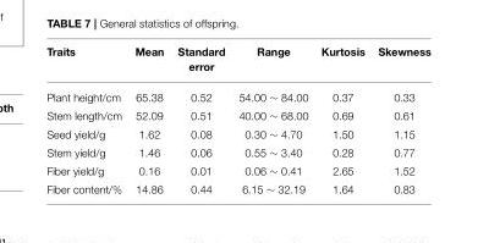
<table><thead><tr><td>Traits</td><td>Mean</td><td>Standard error</td><td>Range</td><td>Kurtosis</td><td>Skewness</td></tr></thead><tbody><tr><td>Plant height/cm</td><td>65.38</td><td>0.52</td><td>54.00 ∼ 84.00</td><td>0.37</td><td>0.33</td></tr><tr><td>Stem length/cm</td><td>52.09</td><td>0.51</td><td>40.00 ∼ 68.00</td><td>0.69</td><td>0.61</td></tr><tr><td>Seed yield/g</td><td>1.62</td><td>0.08</td><td>0.30 ∼ 4.70</td><td>1.50</td><td>1.15</td></tr><tr><td>Stem yield/g</td><td>1.46</td><td>0.06</td><td>0.55 ∼ 3.40</td><td>0.28</td><td>0.77</td></tr><tr><td>Fiber yield/g</td><td>0.16</td><td>0.01</td><td>0.06 ∼ 0.41</td><td>2.65</td><td>1.52</td></tr><tr><td>Fiber content/%</td><td>14.86</td><td>0.44</td><td>6.15 ∼ 32.19</td><td>1.64</td><td>0.83</td></tr></tbody></table>